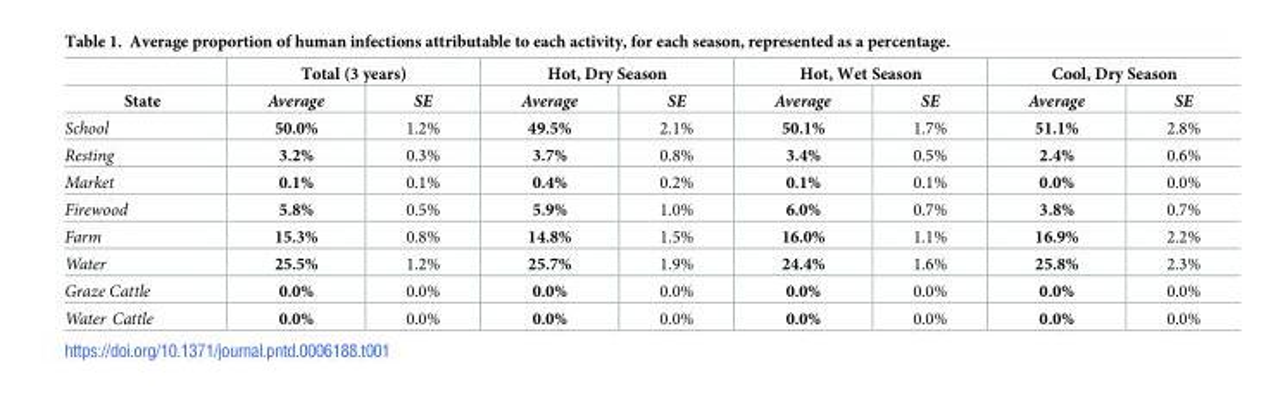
<table><thead><tr><td rowspan="2">State</td><td colspan="2">Total (3 years)</td><td colspan="2">Hot, Dry Season</td><td colspan="2">Hot, Wet Season</td><td colspan="2">Cool, Dry Season</td></tr><tr><td>Average</td><td>SE</td><td>Average</td><td>SE</td><td>Average</td><td>SE</td><td>Average</td><td>SE</td></tr></thead><tbody><tr><td>School</td><td>50.0%</td><td>1.2%</td><td>49.5%</td><td>2.1%</td><td>50.1%</td><td>1.7%</td><td>51.1%</td><td>2.8%</td></tr><tr><td>Resting</td><td>3.2%</td><td>0.3%</td><td>3.7%</td><td>0.8%</td><td>3.4%</td><td>0.5%</td><td>2.4%</td><td>0.6%</td></tr><tr><td>Market</td><td>0.1%</td><td>0.1%</td><td>0.4%</td><td>0.2%</td><td>0.1%</td><td>0.1%</td><td>0.0%</td><td>0.0%</td></tr><tr><td>Firewood</td><td>5.8%</td><td>0.5%</td><td>5.9%</td><td>1.0%</td><td>6.0%</td><td>0.7%</td><td>3.8%</td><td>0.7%</td></tr><tr><td>Farm</td><td>15.3%</td><td>0.8%</td><td>14.8%</td><td>1.5%</td><td>16.0%</td><td>1.1%</td><td>16.9%</td><td>2.2%</td></tr><tr><td>Water</td><td>25.5%</td><td>1.2%</td><td>25.7%</td><td>1.9%</td><td>24.4%</td><td>1.6%</td><td>25.8%</td><td>2.3%</td></tr><tr><td>Graze Cattle</td><td>0.0%</td><td>0.0%</td><td>0.0%</td><td>0.0%</td><td>0.0%</td><td>0.0%</td><td>0.0%</td><td>0.0%</td></tr><tr><td>Water Cattle</td><td>0.0%</td><td>0.0%</td><td>0.0%</td><td>0.0%</td><td>0.0%</td><td>0.0%</td><td>0.0%</td><td>0.0%</td></tr></tbody></table>